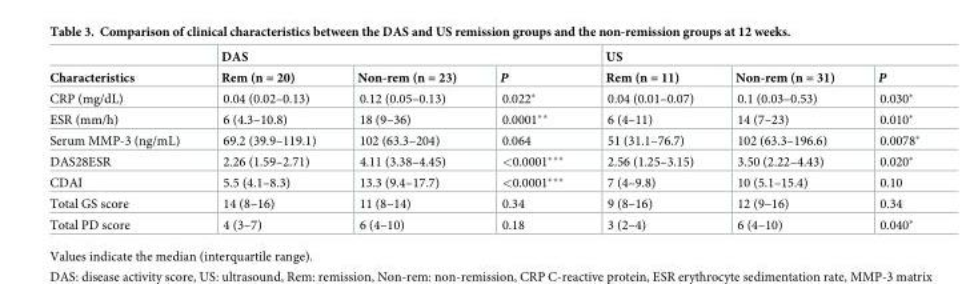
<table><thead><tr><td rowspan="2">Characteristics</td><td colspan="3">DAS</td><td colspan="3">US</td></tr><tr><td>Rem (n = 20)</td><td>Non-rem (n = 23)</td><td>P</td><td>Rem (n = 11)</td><td>Non-rem (n = 31)</td><td>P</td></tr></thead><tbody><tr><td>CRP (mg/dL)</td><td>0.04 (0.02–0.13)</td><td>0.12 (0.05–0.13)</td><td>0.022*</td><td>0.04 (0.01–0.07)</td><td>0.1 (0.03–0.53)</td><td>0.030*</td></tr><tr><td>ESR (mm/h)</td><td>6 (4.3–10.8)</td><td>18 (9–36)</td><td>0.0001**</td><td>6 (4–11)</td><td>14 (7–23)</td><td>0.010*</td></tr><tr><td>Serum MMP-3 (ng/mL)</td><td>69.2 (39.9–119.1)</td><td>102 (63.3–204)</td><td>0.064</td><td>51 (31.1–76.7)</td><td>102 (63.3–196.6)</td><td>0.0078*</td></tr><tr><td>DAS28ESR</td><td>2.26 (1.59–2.71)</td><td>4.11 (3.38–4.45)</td><td>&lt;0.0001***</td><td>2.56 (1.25–3.15)</td><td>3.50 (2.22–4.43)</td><td>0.020*</td></tr><tr><td>CDAI</td><td>5.5 (4.1–8.3)</td><td>13.3 (9.4–17.7)</td><td>&lt;0.0001***</td><td>7 (4–9.8)</td><td>10 (5.1–15.4)</td><td>0.10</td></tr><tr><td>Total GS score</td><td>14 (8–16)</td><td>11 (8–14)</td><td>0.34</td><td>9 (8–16)</td><td>12 (9–16)</td><td>0.34</td></tr><tr><td>Total PD score</td><td>4 (3–7)</td><td>6 (4–10)</td><td>0.18</td><td>3 (2–4)</td><td>6 (4–10)</td><td>0.040*</td></tr></tbody></table>